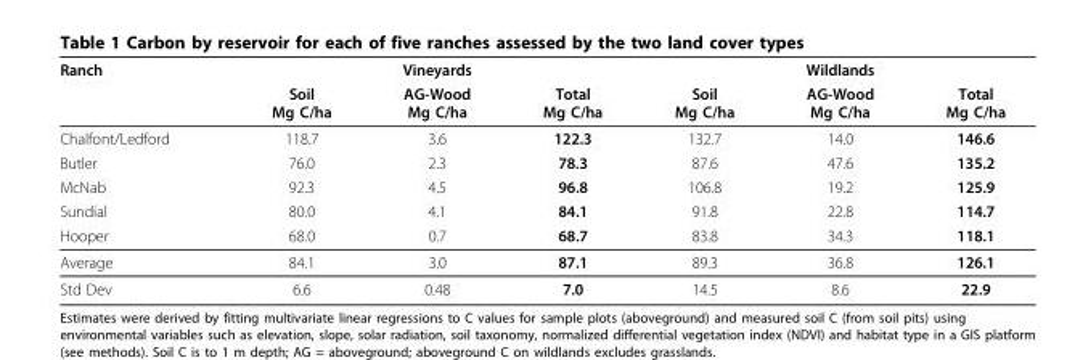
<table><thead><tr><td rowspan="2">Ranch</td><td colspan="3">Vineyards</td><td colspan="3">Wildlands</td></tr><tr><td>Soil Mg C/ha</td><td>AG-Wood Mg C/ha</td><td>Total Mg C/ha</td><td>Soil Mg C/ha</td><td>AG-Wood Mg C/ha</td><td>Total Mg C/ha</td></tr></thead><tbody><tr><td>Chalfont/Ledford</td><td>118.7</td><td>3.6</td><td>122.3</td><td>132.7</td><td>14.0</td><td>146.6</td></tr><tr><td>Butler</td><td>76.0</td><td>2.3</td><td>78.3</td><td>87.6</td><td>47.6</td><td>135.2</td></tr><tr><td>McNab</td><td>92.3</td><td>4.5</td><td>96.8</td><td>106.8</td><td>19.2</td><td>125.9</td></tr><tr><td>Sundial</td><td>80.0</td><td>4.1</td><td>84.1</td><td>91.8</td><td>22.8</td><td>114.7</td></tr><tr><td>Hooper</td><td>68.0</td><td>0.7</td><td>68.7</td><td>83.8</td><td>34.3</td><td>118.1</td></tr><tr><td>Average</td><td>84.1</td><td>3.0</td><td>87.1</td><td>89.3</td><td>36.8</td><td>126.1</td></tr><tr><td>Std Dev</td><td>6.6</td><td>0.48</td><td>7.0</td><td>14.5</td><td>8.6</td><td>22.9</td></tr></tbody></table>